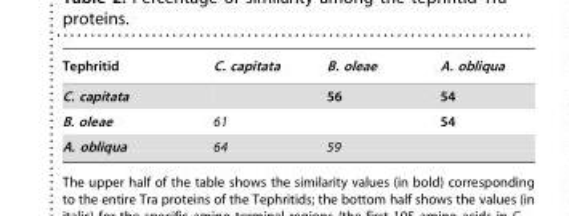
<table><thead><tr><td>Tephritid</td><td>C. capitata</td><td>B. oleae</td><td>A. obliqua</td></tr></thead><tbody><tr><td>C. capitata</td><td></td><td>56</td><td>54</td></tr><tr><td>B. oleae</td><td>61</td><td></td><td>54</td></tr><tr><td>A. obliqua</td><td>64</td><td>59</td><td></td></tr></tbody></table>